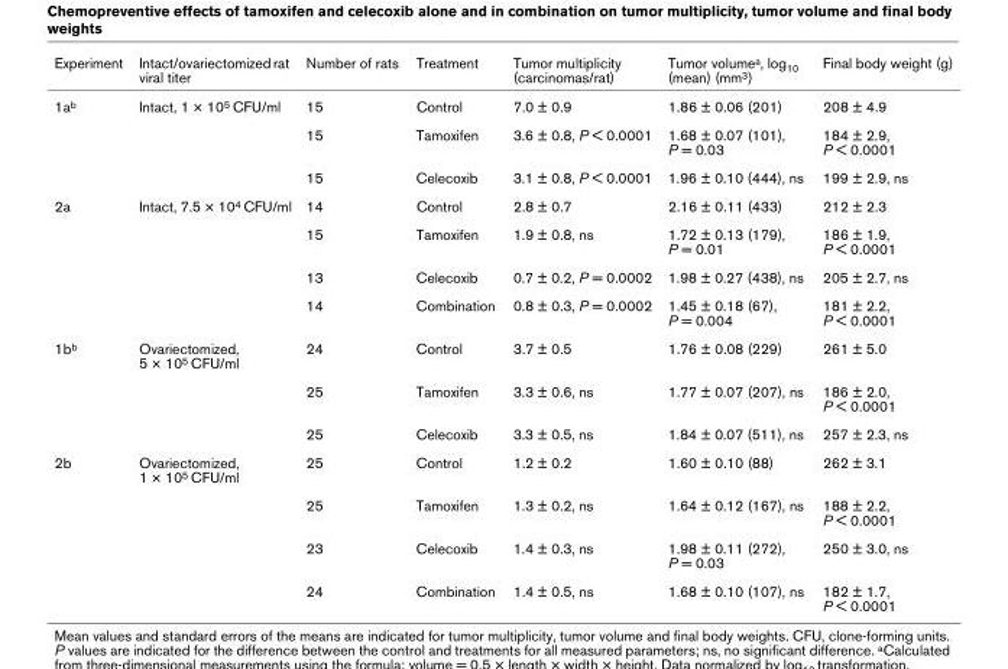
<table><thead><tr><td>Experiment</td><td>Intact/ovariectomized rat viral titer</td><td>Number of rats</td><td>Treatment</td><td>Tumor multiplicity (carcinomas/rat)</td><td>Tumor volume<sup>a</sup>, log<sub>10</sub> (mean) (mm<sup>3</sup>)</td><td>Final body weight (g)</td></tr></thead><tbody><tr><td rowspan="3">1a<sup>b</sup></td><td>Intact, 1 × 10<sup>5</sup> CFU/ml</td><td>15</td><td>Control</td><td>7.0 ± 0.9</td><td>1.86 ± 0.06 (201)</td><td>208 ± 4.9</td></tr><tr><td></td><td>15</td><td>Tamoxifen</td><td>3.6 ± 0.8, P &lt; 0.0001</td><td>1.68 ± 0.07 (101), P = 0.03</td><td>184 ± 2.9, P &lt; 0.0001</td></tr><tr><td></td><td>15</td><td>Celecoxib</td><td>3.1 ± 0.8, P &lt; 0.0001</td><td>1.96 ± 0.10 (444), ns</td><td>199 ± 2.9, ns</td></tr><tr><td rowspan="4">2a</td><td>Intact, 7.5 × 10<sup>4</sup> CFU/ml</td><td>14</td><td>Control</td><td>2.8 ± 0.7</td><td>2.16 ± 0.11 (433)</td><td>212 ± 2.3</td></tr><tr><td></td><td>15</td><td>Tamoxifen</td><td>1.9 ± 0.8, ns</td><td>1.72 ± 0.13 (179), P = 0.01</td><td>186 ± 1.9, P &lt; 0.0001</td></tr><tr><td></td><td>13</td><td>Celecoxib</td><td>0.7 ± 0.2, P = 0.0002</td><td>1.98 ± 0.27 (438), ns</td><td>205 ± 2.7, ns</td></tr><tr><td></td><td>14</td><td>Combination</td><td>0.8 ± 0.3, P = 0.0002</td><td>1.45 ± 0.18 (67), P = 0.004</td><td>181 ± 2.2, P &lt; 0.0001</td></tr><tr><td rowspan="3">1b<sup>b</sup></td><td>Ovariectomized, 5 × 10<sup>5</sup> CFU/ml</td><td>24</td><td>Control</td><td>3.7 ± 0.5</td><td>1.76 ± 0.08 (229)</td><td>261 ± 5.0</td></tr><tr><td></td><td>25</td><td>Tamoxifen</td><td>3.3 ± 0.6, ns</td><td>1.77 ± 0.07 (207), ns</td><td>186 ± 2.0, P &lt; 0.0001</td></tr><tr><td></td><td>25</td><td>Celecoxib</td><td>3.3 ± 0.5, ns</td><td>1.84 ± 0.07 (511), ns</td><td>257 ± 2.3, ns</td></tr><tr><td rowspan="4">2b</td><td>Ovariectomized, 1 × 10<sup>5</sup> CFU/ml</td><td>25</td><td>Control</td><td>1.2 ± 0.2</td><td>1.60 ± 0.10 (88)</td><td>262 ± 3.1</td></tr><tr><td></td><td>25</td><td>Tamoxifen</td><td>1.3 ± 0.2, ns</td><td>1.64 ± 0.12 (167), ns</td><td>188 ± 2.2, P &lt; 0.0001</td></tr><tr><td></td><td>23</td><td>Celecoxib</td><td>1.4 ± 0.3, ns</td><td>1.98 ± 0.11 (272), P = 0.03</td><td>250 ± 3.0, ns</td></tr><tr><td></td><td>24</td><td>Combination</td><td>1.4 ± 0.5, ns</td><td>1.68 ± 0.10 (107), ns</td><td>182 ± 1.7, P &lt; 0.0001</td></tr></tbody></table>